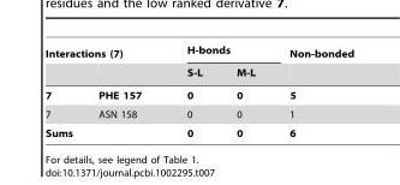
<table><thead><tr><td colspan="2">Interactions (7)</td><td colspan="2">H-bonds</td><td rowspan="2">Non-bonded</td></tr><tr><td></td><td></td><td>S-L</td><td>M-L</td></tr></thead><tbody><tr><td>7</td><td>PHE 157</td><td>0</td><td>0</td><td>5</td></tr><tr><td>7</td><td>ASN 158</td><td>0</td><td>0</td><td>1</td></tr><tr><td>Sums</td><td></td><td>0</td><td>0</td><td>6</td></tr></tbody></table>